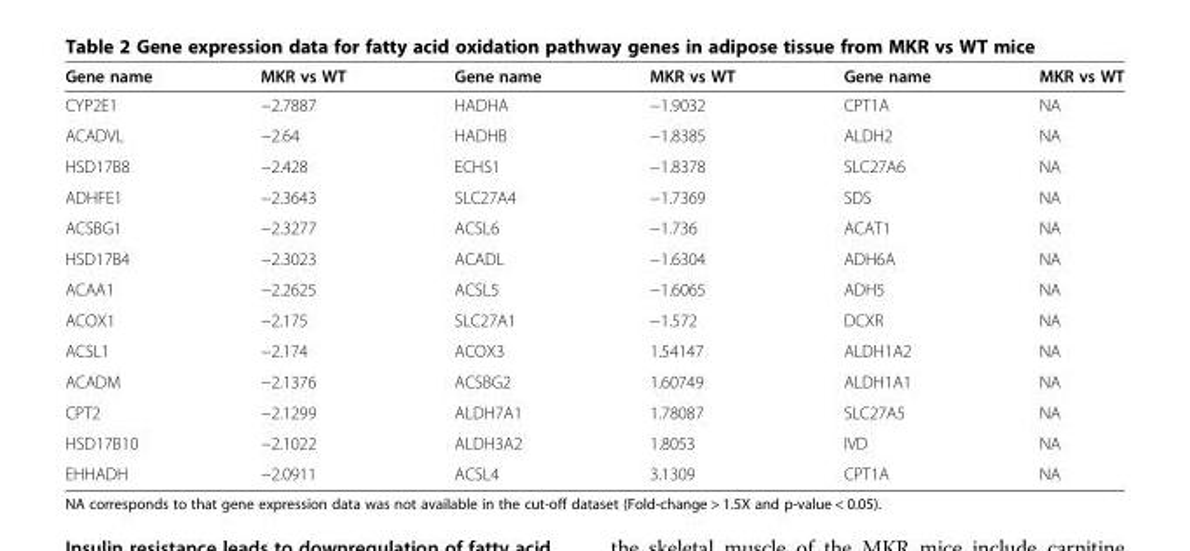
<table><thead><tr><td>Gene name</td><td>MKR vs WT</td><td>Gene name</td><td>MKR vs WT</td><td>Gene name</td><td>MKR vs WT</td></tr></thead><tbody><tr><td>CYP2E1</td><td>−2.7887</td><td>HADHA</td><td>−1.9032</td><td>CPT1A</td><td>NA</td></tr><tr><td>ACADVL</td><td>−2.64</td><td>HADHB</td><td>−1.8385</td><td>ALDH2</td><td>NA</td></tr><tr><td>HSD17B8</td><td>−2.428</td><td>ECHS1</td><td>−1.8378</td><td>SLC27A6</td><td>NA</td></tr><tr><td>ADHFE1</td><td>−2.3643</td><td>SLC27A4</td><td>−1.7369</td><td>SDS</td><td>NA</td></tr><tr><td>ACSBG1</td><td>−2.3277</td><td>ACSL6</td><td>−1.736</td><td>ACAT1</td><td>NA</td></tr><tr><td>HSD17B4</td><td>−2.3023</td><td>ACADL</td><td>−1.6304</td><td>ADH6A</td><td>NA</td></tr><tr><td>ACAA1</td><td>−2.2625</td><td>ACSL5</td><td>−1.6065</td><td>ADH5</td><td>NA</td></tr><tr><td>ACOX1</td><td>−2.175</td><td>SLC27A1</td><td>−1.572</td><td>DCXR</td><td>NA</td></tr><tr><td>ACSL1</td><td>−2.174</td><td>ACOX3</td><td>1.54147</td><td>ALDH1A2</td><td>NA</td></tr><tr><td>ACADM</td><td>−2.1376</td><td>ACSBG2</td><td>1.60749</td><td>ALDH1A1</td><td>NA</td></tr><tr><td>CPT2</td><td>−2.1299</td><td>ALDH7A1</td><td>1.78087</td><td>SLC27A5</td><td>NA</td></tr><tr><td>HSD17B10</td><td>−2.1022</td><td>ALDH3A2</td><td>1.8053</td><td>IVD</td><td>NA</td></tr><tr><td>EHHADH</td><td>−2.0911</td><td>ACSL4</td><td>3.1309</td><td>CPT1A</td><td>NA</td></tr></tbody></table>